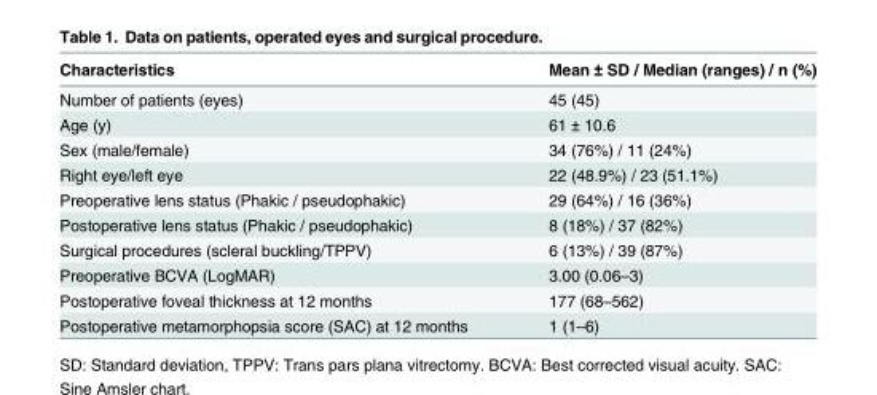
<table><thead><tr><td>Characteristics</td><td>Mean ± SD / Median (ranges) / n (%)</td></tr></thead><tbody><tr><td>Number of patients (eyes)</td><td>45 (45)</td></tr><tr><td>Age (y)</td><td>61 ± 10.6</td></tr><tr><td>Sex (male/female)</td><td>34 (76%) / 11 (24%)</td></tr><tr><td>Right eye/left eye</td><td>22 (48.9%) / 23 (51.1%)</td></tr><tr><td>Preoperative lens status (Phakic / pseudophakic)</td><td>29 (64%) / 16 (36%)</td></tr><tr><td>Postoperative lens status (Phakic / pseudophakic)</td><td>8 (18%) / 37 (82%)</td></tr><tr><td>Surgical procedures (scleral buckling/TPPV)</td><td>6 (13%) / 39 (87%)</td></tr><tr><td>Preoperative BCVA (LogMAR)</td><td>3.00 (0.06–3)</td></tr><tr><td>Postoperative foveal thickness at 12 months</td><td>177 (68–562)</td></tr><tr><td>Postoperative metamorphopsia score (SAC) at 12 months</td><td>1 (1–6)</td></tr></tbody></table>